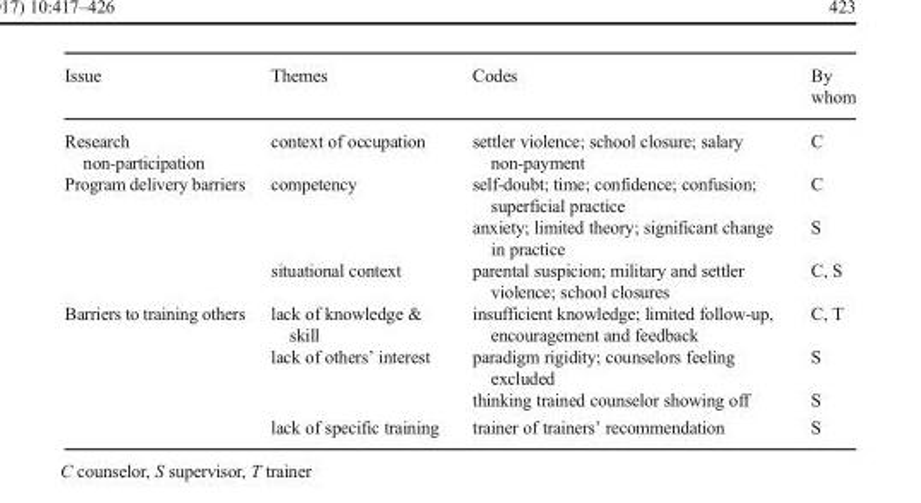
<table><thead><tr><td>Issue</td><td>Themes</td><td>Codes</td><td>By whom</td></tr></thead><tbody><tr><td>Research non-participation</td><td>context of occupation</td><td>settler violence; school closure; salary non-payment</td><td>C</td></tr><tr><td rowspan="3">Program delivery barriers</td><td>competency</td><td>self-doubt; time; confidence; confusion; superficial practice</td><td>C</td></tr><tr><td></td><td>anxiety; limited theory; significant change in practice</td><td>S</td></tr><tr><td>situational context</td><td>parental suspicion; military and settler violence; school closures</td><td>C, S</td></tr><tr><td rowspan="4">Barriers to training others</td><td>lack of knowledge &amp; skill</td><td>insufficient knowledge; limited follow-up, encouragement and feedback</td><td>C, T</td></tr><tr><td>lack of others’ interest</td><td>paradigm rigidity; counselors feeling excluded</td><td>S</td></tr><tr><td></td><td>thinking trained counselor showing off</td><td>S</td></tr><tr><td>lack of specific training</td><td>trainer of trainers’ recommendation</td><td>S</td></tr></tbody></table>